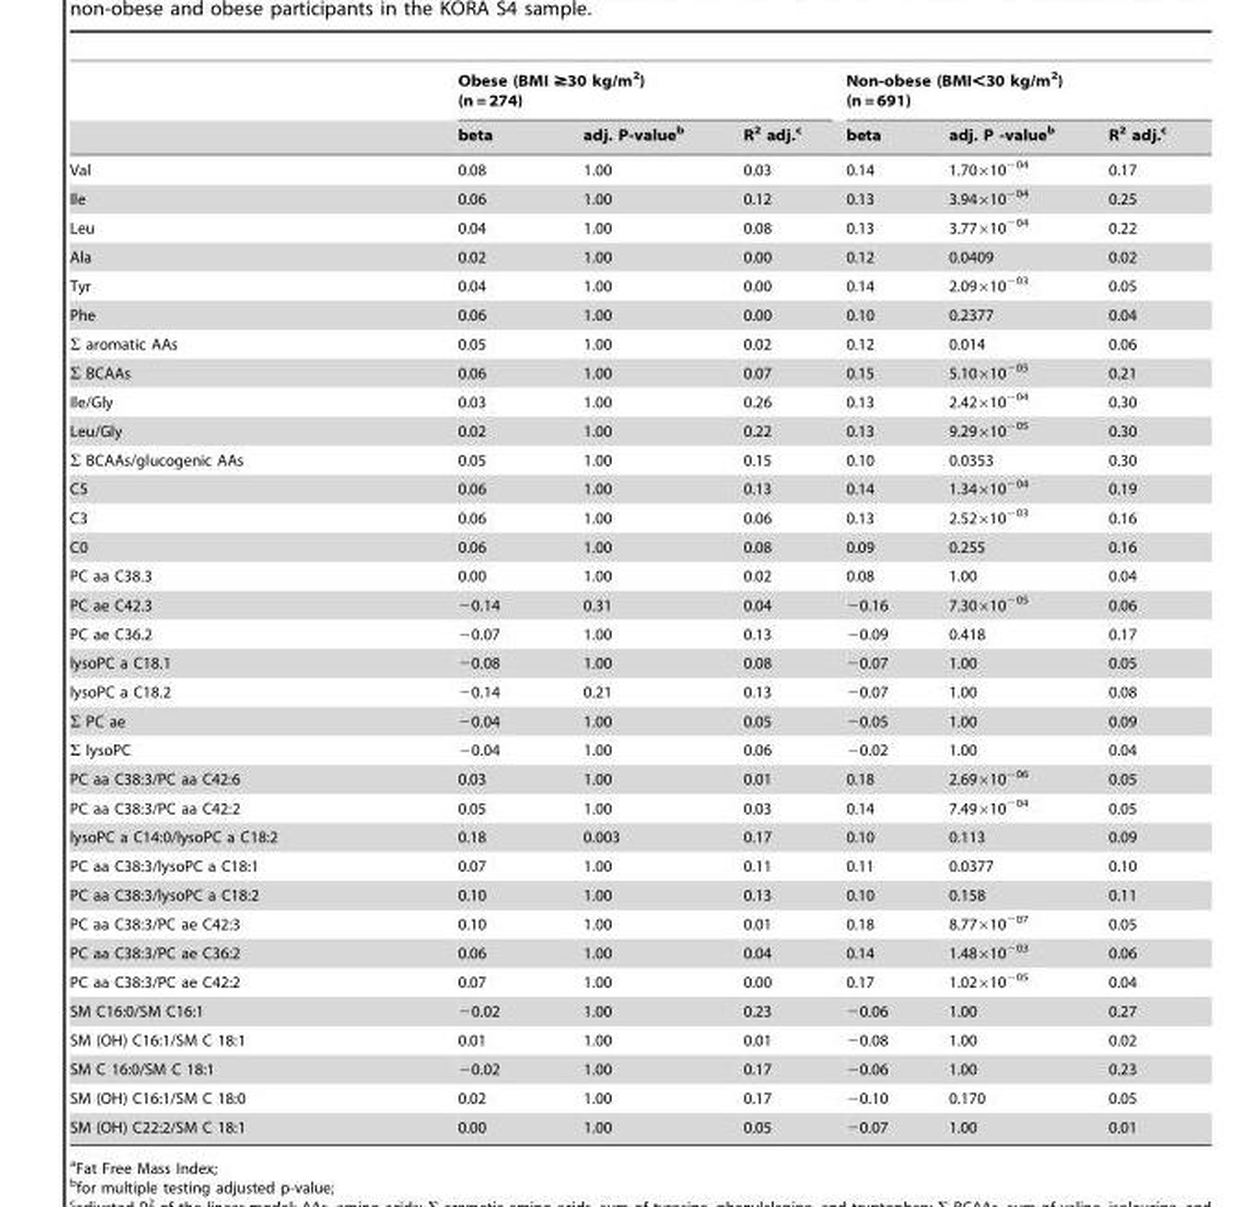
<table><thead><tr><td rowspan="2"></td><td colspan="3">Obese (BMI ≥30 kg/m<sup>2</sup>) (n = 274)</td><td colspan="3">Non-obese (BMI&lt;30 kg/m<sup>2</sup>) (n = 691)</td></tr><tr><td>beta</td><td>adj. P-value<sup>b</sup></td><td>R<sup>2</sup> adj.<sup>c</sup></td><td>beta</td><td>adj. P -value<sup>b</sup></td><td>R<sup>2</sup> adj.<sup>c</sup></td></tr></thead><tbody><tr><td>Val</td><td>0.08</td><td>1.00</td><td>0.03</td><td>0.14</td><td>1.70×10<sup>−04</sup></td><td>0.17</td></tr><tr><td>Ile</td><td>0.06</td><td>1.00</td><td>0.12</td><td>0.13</td><td>3.94×10<sup>−04</sup></td><td>0.25</td></tr><tr><td>Leu</td><td>0.04</td><td>1.00</td><td>0.08</td><td>0.13</td><td>3.77×10<sup>−04</sup></td><td>0.22</td></tr><tr><td>Ala</td><td>0.02</td><td>1.00</td><td>0.00</td><td>0.12</td><td>0.0409</td><td>0.02</td></tr><tr><td>Tyr</td><td>0.04</td><td>1.00</td><td>0.00</td><td>0.14</td><td>2.09×10<sup>−03</sup></td><td>0.05</td></tr><tr><td>Phe</td><td>0.06</td><td>1.00</td><td>0.00</td><td>0.10</td><td>0.2377</td><td>0.04</td></tr><tr><td>Σ aromatic AAs</td><td>0.05</td><td>1.00</td><td>0.02</td><td>0.12</td><td>0.014</td><td>0.06</td></tr><tr><td>Σ BCAAs</td><td>0.06</td><td>1.00</td><td>0.07</td><td>0.15</td><td>5.10×10<sup>−05</sup></td><td>0.21</td></tr><tr><td>Ile/Gly</td><td>0.03</td><td>1.00</td><td>0.26</td><td>0.13</td><td>2.42×10<sup>−04</sup></td><td>0.30</td></tr><tr><td>Leu/Gly</td><td>0.02</td><td>1.00</td><td>0.22</td><td>0.13</td><td>9.29×10<sup>−05</sup></td><td>0.30</td></tr><tr><td>Σ BCAAs/glucogenic AAs</td><td>0.05</td><td>1.00</td><td>0.15</td><td>0.10</td><td>0.0353</td><td>0.30</td></tr><tr><td>C5</td><td>0.06</td><td>1.00</td><td>0.13</td><td>0.14</td><td>1.34×10<sup>−04</sup></td><td>0.19</td></tr><tr><td>C3</td><td>0.06</td><td>1.00</td><td>0.06</td><td>0.13</td><td>2.52×10<sup>−03</sup></td><td>0.16</td></tr><tr><td>C0</td><td>0.06</td><td>1.00</td><td>0.08</td><td>0.09</td><td>0.255</td><td>0.16</td></tr><tr><td>PC aa C38.3</td><td>0.00</td><td>1.00</td><td>0.02</td><td>0.08</td><td>1.00</td><td>0.04</td></tr><tr><td>PC ae C42.3</td><td>−0.14</td><td>0.31</td><td>0.04</td><td>−0.16</td><td>7.30×10<sup>−05</sup></td><td>0.06</td></tr><tr><td>PC ae C36.2</td><td>−0.07</td><td>1.00</td><td>0.13</td><td>−0.09</td><td>0.418</td><td>0.17</td></tr><tr><td>lysoPC a C18.1</td><td>−0.08</td><td>1.00</td><td>0.08</td><td>−0.07</td><td>1.00</td><td>0.05</td></tr><tr><td>lysoPC a C18.2</td><td>−0.14</td><td>0.21</td><td>0.13</td><td>−0.07</td><td>1.00</td><td>0.08</td></tr><tr><td>Σ PC ae</td><td>−0.04</td><td>1.00</td><td>0.05</td><td>−0.05</td><td>1.00</td><td>0.09</td></tr><tr><td>Σ lysoPC</td><td>−0.04</td><td>1.00</td><td>0.06</td><td>−0.02</td><td>1.00</td><td>0.04</td></tr><tr><td>PC aa C38:3/PC aa C42:6</td><td>0.03</td><td>1.00</td><td>0.01</td><td>0.18</td><td>2.69×10<sup>−06</sup></td><td>0.05</td></tr><tr><td>PC aa C38:3/PC aa C42:2</td><td>0.05</td><td>1.00</td><td>0.03</td><td>0.14</td><td>7.49×10<sup>−04</sup></td><td>0.05</td></tr><tr><td>lysoPC a C14:0/lysoPC a C18:2</td><td>0.18</td><td>0.003</td><td>0.17</td><td>0.10</td><td>0.113</td><td>0.09</td></tr><tr><td>PC aa C38:3/lysoPC a C18:1</td><td>0.07</td><td>1.00</td><td>0.11</td><td>0.11</td><td>0.0377</td><td>0.10</td></tr><tr><td>PC aa C38:3/lysoPC a C18:2</td><td>0.10</td><td>1.00</td><td>0.13</td><td>0.10</td><td>0.158</td><td>0.11</td></tr><tr><td>PC aa C38:3/PC ae C42:3</td><td>0.10</td><td>1.00</td><td>0.01</td><td>0.18</td><td>8.77×10<sup>−07</sup></td><td>0.05</td></tr><tr><td>PC aa C38:3/PC ae C36:2</td><td>0.06</td><td>1.00</td><td>0.04</td><td>0.14</td><td>1.48×10<sup>−03</sup></td><td>0.06</td></tr><tr><td>PC aa C38:3/PC ae C42:2</td><td>0.07</td><td>1.00</td><td>0.00</td><td>0.17</td><td>1.02×10<sup>−05</sup></td><td>0.04</td></tr><tr><td>SM C16:0/SM C16:1</td><td>−0.02</td><td>1.00</td><td>0.23</td><td>−0.06</td><td>1.00</td><td>0.27</td></tr><tr><td>SM (OH) C16:1/SM C 18:1</td><td>0.01</td><td>1.00</td><td>0.01</td><td>−0.08</td><td>1.00</td><td>0.02</td></tr><tr><td>SM C 16:0/SM C 18:1</td><td>−0.02</td><td>1.00</td><td>0.17</td><td>−0.06</td><td>1.00</td><td>0.23</td></tr><tr><td>SM (OH) C16:1/SM C 18:0</td><td>0.02</td><td>1.00</td><td>0.17</td><td>−0.10</td><td>0.170</td><td>0.05</td></tr><tr><td>SM (OH) C22:2/SM C 18:1</td><td>0.00</td><td>1.00</td><td>0.05</td><td>−0.07</td><td>1.00</td><td>0.01</td></tr></tbody></table>